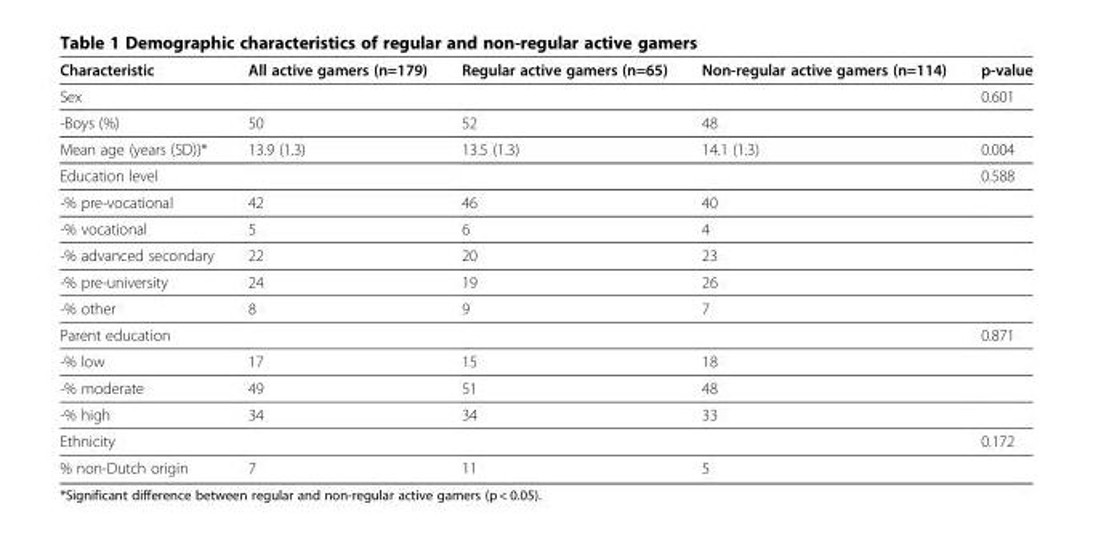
<table><thead><tr><td>Characteristic</td><td>All active gamers (n=179)</td><td>Regular active gamers (n=65)</td><td>Non-regular active gamers (n=114)</td><td>p-value</td></tr></thead><tbody><tr><td>Sex</td><td></td><td></td><td></td><td>0.601</td></tr><tr><td>-Boys (%)</td><td>50</td><td>52</td><td>48</td><td></td></tr><tr><td>Mean age (years (SD))*</td><td>13.9 (1.3)</td><td>13.5 (1.3)</td><td>14.1 (1.3)</td><td>0.004</td></tr><tr><td>Education level</td><td></td><td></td><td></td><td>0.588</td></tr><tr><td>-% pre-vocational</td><td>42</td><td>46</td><td>40</td><td></td></tr><tr><td>-% vocational</td><td>5</td><td>6</td><td>4</td><td></td></tr><tr><td>-% advanced secondary</td><td>22</td><td>20</td><td>23</td><td></td></tr><tr><td>-% pre-university</td><td>24</td><td>19</td><td>26</td><td></td></tr><tr><td>-% other</td><td>8</td><td>9</td><td>7</td><td></td></tr><tr><td>Parent education</td><td></td><td></td><td></td><td>0.871</td></tr><tr><td>-% low</td><td>17</td><td>15</td><td>18</td><td></td></tr><tr><td>-% moderate</td><td>49</td><td>51</td><td>48</td><td></td></tr><tr><td>-% high</td><td>34</td><td>34</td><td>33</td><td></td></tr><tr><td>Ethnicity</td><td></td><td></td><td></td><td>0.172</td></tr><tr><td>% non-Dutch origin</td><td>7</td><td>11</td><td>5</td><td></td></tr></tbody></table>